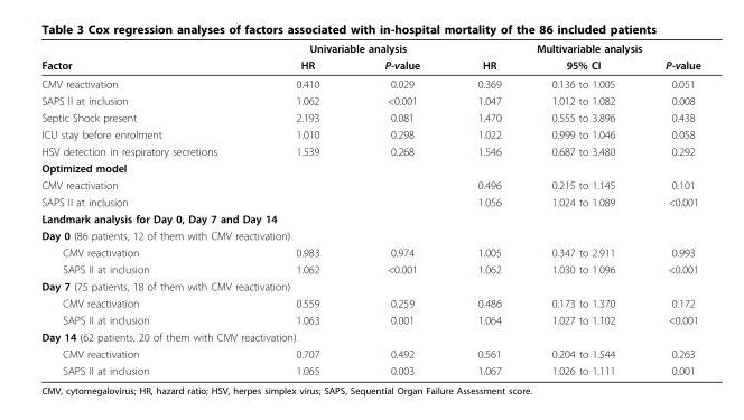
<table><thead><tr><td rowspan="2">Factor</td><td colspan="2">Univariable analysis</td><td colspan="3">Multivariable analysis</td></tr><tr><td>HR</td><td>P-value</td><td>HR</td><td>95% CI</td><td>P-value</td></tr></thead><tbody><tr><td>CMV reactivation</td><td>0.410</td><td>0.029</td><td>0.369</td><td>0.136 to 1.005</td><td>0.051</td></tr><tr><td>SAPS II at inclusion</td><td>1.062</td><td>&lt;0.001</td><td>1.047</td><td>1.012 to 1.082</td><td>0.008</td></tr><tr><td>Septic Shock present</td><td>2.193</td><td>0.081</td><td>1.470</td><td>0.555 to 3.896</td><td>0.438</td></tr><tr><td>ICU stay before enrolment</td><td>1.010</td><td>0.298</td><td>1.022</td><td>0.999 to 1.046</td><td>0.058</td></tr><tr><td>HSV detection in respiratory secretions</td><td>1.539</td><td>0.268</td><td>1.546</td><td>0.687 to 3.480</td><td>0.292</td></tr><tr><td colspan="6">Optimized model</td></tr><tr><td>CMV reactivation</td><td></td><td></td><td>0.496</td><td>0.215 to 1.145</td><td>0.101</td></tr><tr><td>SAPS II at inclusion</td><td></td><td></td><td>1.056</td><td>1.024 to 1.089</td><td>&lt;0.001</td></tr><tr><td colspan="6">Landmark analysis for Day 0, Day 7 and Day 14</td></tr><tr><td colspan="6">Day 0 (86 patients, 12 of them with CMV reactivation)</td></tr><tr><td>CMV reactivation</td><td>0.983</td><td>0.974</td><td>1.005</td><td>0.347 to 2.911</td><td>0.993</td></tr><tr><td>SAPS II at inclusion</td><td>1.062</td><td>&lt;0.001</td><td>1.062</td><td>1.030 to 1.096</td><td>&lt;0.001</td></tr><tr><td colspan="6">Day 7 (75 patients, 18 of them with CMV reactivation)</td></tr><tr><td>CMV reactivation</td><td>0.559</td><td>0.259</td><td>0.486</td><td>0.173 to 1.370</td><td>0.172</td></tr><tr><td>SAPS II at inclusion</td><td>1.063</td><td>0.001</td><td>1.064</td><td>1.027 to 1.102</td><td>&lt;0.001</td></tr><tr><td colspan="6">Day 14 (62 patients, 20 of them with CMV reactivation)</td></tr><tr><td>CMV reactivation</td><td>0.707</td><td>0.492</td><td>0.561</td><td>0.204 to 1.544</td><td>0.263</td></tr><tr><td>SAPS II at inclusion</td><td>1.065</td><td>0.003</td><td>1.067</td><td>1.026 to 1.111</td><td>0.001</td></tr></tbody></table>